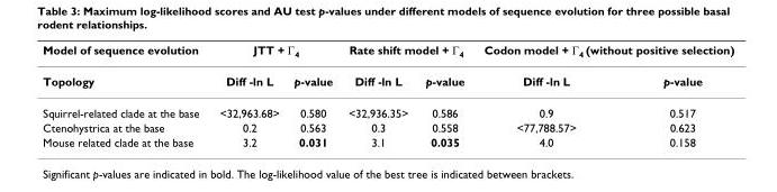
<table><thead><tr><td rowspan="2">Model of sequence evolution Topology</td><td colspan="2">JTT + Γ<sub>4</sub></td><td colspan="2">Rate shift model + Γ<sub>4</sub></td><td colspan="2">Codon model + Γ<sub>4</sub> (without positive selection)</td></tr><tr><td>Diff -ln L</td><td>p-value</td><td>Diff -ln L</td><td>p-value</td><td>Diff -ln L</td><td>p-value</td></tr></thead><tbody><tr><td>Squirrel-related clade at the base</td><td>&lt;32,963.68&gt;</td><td>0.580</td><td>&lt;32,936.35&gt;</td><td>0.586</td><td>0.9</td><td>0.517</td></tr><tr><td>Ctenohystrica at the base</td><td>0.2</td><td>0.563</td><td>0.3</td><td>0.558</td><td>&lt;77,788.57&gt;</td><td>0.623</td></tr><tr><td>Mouse related clade at the base</td><td>3.2</td><td>0.031</td><td>3.1</td><td>0.035</td><td>4.0</td><td>0.158</td></tr></tbody></table>